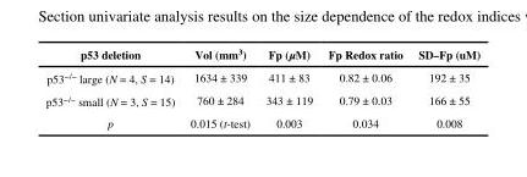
<table><thead><tr><td>p53 deletion</td><td>Vol (mm<sup>3</sup>)</td><td>Fp (μM)</td><td>Fp Redox ratio</td><td>SD–Fp (uM)</td></tr></thead><tbody><tr><td>p53<sup>−/−</sup> large (N = 4, S = 14)</td><td>1634 ± 339</td><td>411 ± 83</td><td>0.82 ± 0.06</td><td>192 ± 35</td></tr><tr><td>p53<sup>−/−</sup> small (N = 3, S = 15)</td><td>760 ± 284</td><td>343 ± 119</td><td>0.79 ± 0.03</td><td>166 ± 55</td></tr><tr><td>p</td><td>0.015 (t-test)</td><td>0.003</td><td>0.034</td><td>0.008</td></tr></tbody></table>